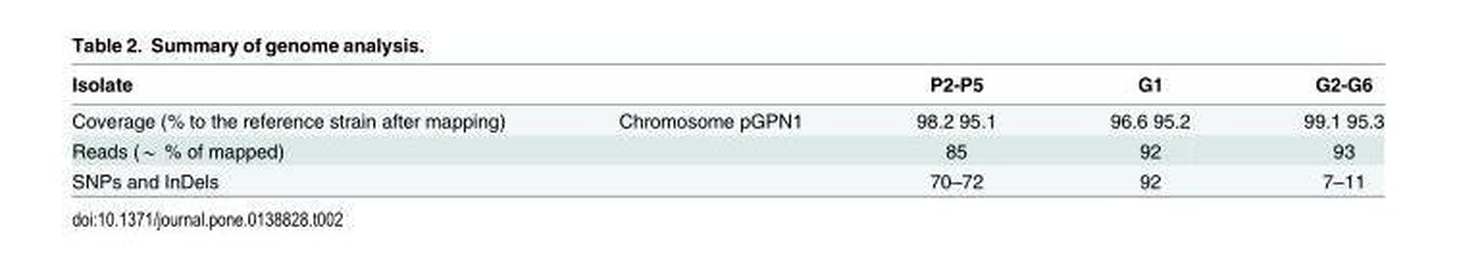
<table><thead><tr><td>Isolate</td><td></td><td>P2-P5</td><td>G1</td><td>G2-G6</td></tr></thead><tbody><tr><td>Coverage (% to the reference strain after mapping)</td><td>Chromosome pGPN1</td><td>98.2 95.1</td><td>96.6 95.2</td><td>99.1 95.3</td></tr><tr><td>Reads (* % of mapped)</td><td></td><td>85</td><td>92</td><td>93</td></tr><tr><td>SNPs and InDels</td><td></td><td>70–72</td><td>92</td><td>7–11</td></tr></tbody></table>